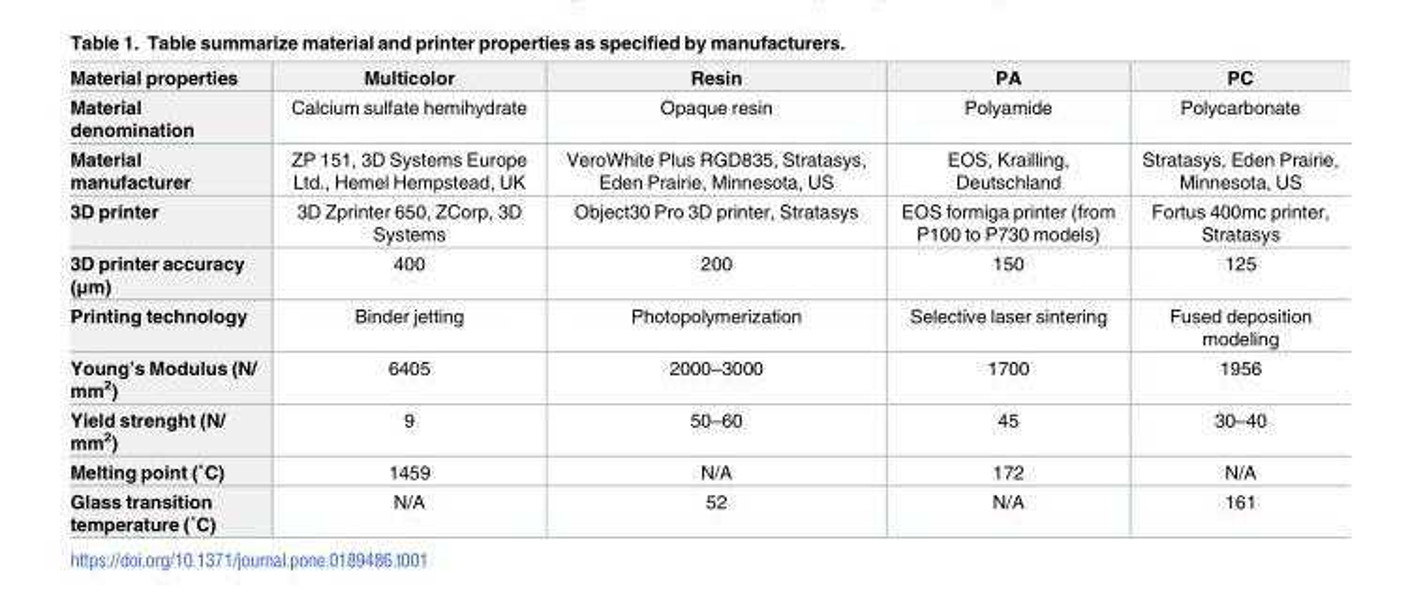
<table><thead><tr><td>Material properties</td><td>Multicolor</td><td>Resin</td><td>PA</td><td>PC</td></tr></thead><tbody><tr><td>Material denomination</td><td>Calcium sulfate hemihydrate</td><td>Opaque resin</td><td>Polyamide</td><td>Polycarbonate</td></tr><tr><td>Material manufacturer</td><td>ZP 151, 3D Systems Europe Ltd., Hemel Hempstead, UK</td><td>VeroWhite Plus RGD835, Stratasys, Eden Prairie, Minnesota, US</td><td>EOS, Krailling, Deutschland</td><td>Stratasys, Eden Prairie, Minnesota, US</td></tr><tr><td>3D printer</td><td>3D Zprinter 650, ZCorp, 3D Systems</td><td>Object30 Pro 3D printer, Stratasys</td><td>EOS formiga printer (from P100 to P730 models)</td><td>Fortus 400mc printer, Stratasys</td></tr><tr><td>3D printer accuracy (μm)</td><td>400</td><td>200</td><td>150</td><td>125</td></tr><tr><td>Printing technology</td><td>Binder jetting</td><td>Photopolymerization</td><td>Selective laser sintering</td><td>Fused deposition modeling</td></tr><tr><td>Young’s Modulus (N/ mm<sup>2</sup>)</td><td>6405</td><td>2000–3000</td><td>1700</td><td>1956</td></tr><tr><td>Yield strenght (N/ mm<sup>2</sup>)</td><td>9</td><td>50–60</td><td>45</td><td>30–40</td></tr><tr><td>Melting point (˚C)</td><td>1459</td><td>N/A</td><td>172</td><td>N/A</td></tr><tr><td>Glass transition temperature (˚C)</td><td>N/A</td><td>52</td><td>N/A</td><td>161</td></tr></tbody></table>